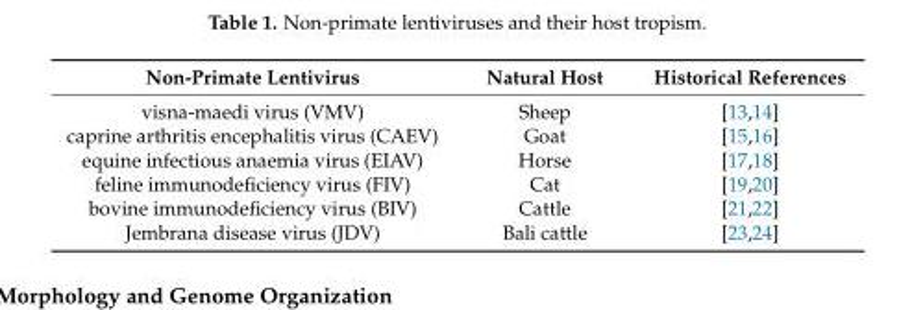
<table><thead><tr><td>Non-Primate Lentivirus</td><td>Natural Host</td><td>Historical References</td></tr></thead><tbody><tr><td>visna-maedi virus (VMV)</td><td>Sheep</td><td>[13,14]</td></tr><tr><td>caprine arthritis encephalitis virus (CAEV)</td><td>Goat</td><td>[15,16]</td></tr><tr><td>equine infectious anaemia virus (EIAV)</td><td>Horse</td><td>[17,18]</td></tr><tr><td>feline immunodeficiency virus (FIV)</td><td>Cat</td><td>[19,20]</td></tr><tr><td>bovine immunodeficiency virus (BIV)</td><td>Cattle</td><td>[21,22]</td></tr><tr><td>Jembrana disease virus (JDV)</td><td>Bali cattle</td><td>[23,24]</td></tr></tbody></table>